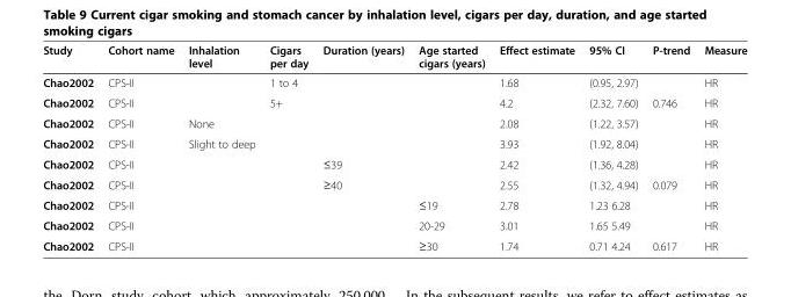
<table><thead><tr><td>Study</td><td>Cohort name</td><td>Inhalation level</td><td>Cigars per day</td><td>Duration (years)</td><td>Age started cigars (years)</td><td>Effect estimate</td><td>95% CI</td><td>P-trend</td><td>Measure</td></tr></thead><tbody><tr><td>Chao2002</td><td>CPS-II</td><td></td><td>1 to 4</td><td></td><td></td><td>1.68</td><td>(0.95, 2.97)</td><td></td><td>HR</td></tr><tr><td>Chao2002</td><td>CPS-II</td><td></td><td>5+</td><td></td><td></td><td>4.2</td><td>(2.32, 7.60)</td><td>0.746</td><td>HR</td></tr><tr><td>Chao2002</td><td>CPS-II</td><td>None</td><td></td><td></td><td></td><td>2.08</td><td>(1.22, 3.57)</td><td></td><td>HR</td></tr><tr><td>Chao2002</td><td>CPS-II</td><td>Slight to deep</td><td></td><td></td><td></td><td>3.93</td><td>(1.92, 8.04)</td><td></td><td>HR</td></tr><tr><td>Chao2002</td><td>CPS-II</td><td></td><td></td><td>≤39</td><td></td><td>2.42</td><td>(1.36, 4.28)</td><td></td><td>HR</td></tr><tr><td>Chao2002</td><td>CPS-II</td><td></td><td></td><td>≥40</td><td></td><td>2.55</td><td>(1.32, 4.94)</td><td>0.079</td><td>HR</td></tr><tr><td>Chao2002</td><td>CPS-II</td><td></td><td></td><td></td><td>≤19</td><td>2.78</td><td>1.23 6.28</td><td></td><td>HR</td></tr><tr><td>Chao2002</td><td>CPS-II</td><td></td><td></td><td></td><td>20-29</td><td>3.01</td><td>1.65 5.49</td><td></td><td>HR</td></tr><tr><td>Chao2002</td><td>CPS-II</td><td></td><td></td><td></td><td>≥30</td><td>1.74</td><td>0.71 4.24</td><td>0.617</td><td>HR</td></tr></tbody></table>